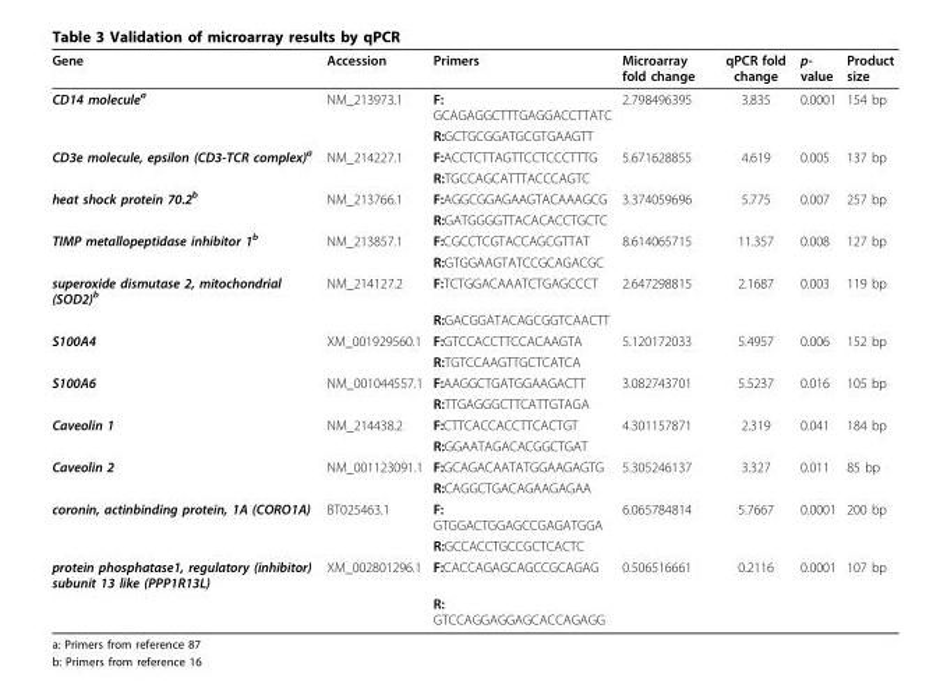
<table><thead><tr><td>Gene</td><td>Accession</td><td>Primers</td><td>Microarray fold change</td><td>qPCR fold change</td><td>p- value</td><td>Product size</td></tr></thead><tbody><tr><td rowspan="2">CD14 molecule<sup>a</sup></td><td>NM_213973.1</td><td>F: GCAGAGGCTTTGAGGACCTTATC</td><td>2.798496395</td><td>3.835</td><td>0.0001</td><td>154 bp</td></tr><tr><td></td><td>R:GCTGCGGATGCGTGAAGTT</td><td></td><td></td><td></td><td></td></tr><tr><td rowspan="2">CD3e molecule, epsilon (CD3-TCR complex)<sup>a</sup></td><td>NM_214227.1</td><td>F:ACCTCTTAGTTCCTCCCTTTG</td><td>5.671628855</td><td>4.619</td><td>0.005</td><td>137 bp</td></tr><tr><td></td><td>R:TGCCAGCATTTACCCAGTC</td><td></td><td></td><td></td><td></td></tr><tr><td rowspan="2">heat shock protein 70.2<sup>b</sup></td><td>NM_213766.1</td><td>F:AGGCGGAGAAGTACAAAGCG</td><td>3.374059696</td><td>5.775</td><td>0.007</td><td>257 bp</td></tr><tr><td></td><td>R:GATGGGGTTACACACCTGCTC</td><td></td><td></td><td></td><td></td></tr><tr><td rowspan="2">TIMP metallopeptidase inhibitor 1<sup>b</sup></td><td>NM_213857.1</td><td>F:CGCCTCGTACCAGCGTTAT</td><td>8.614065715</td><td>11.357</td><td>0.008</td><td>127 bp</td></tr><tr><td></td><td>R:GTGGAAGTATCCGCAGACGC</td><td></td><td></td><td></td><td></td></tr><tr><td rowspan="2">superoxide dismutase 2, mitochondrial (SOD2)<sup>b</sup></td><td>NM_214127.2</td><td>F:TCTGGACAAATCTGAGCCCT</td><td>2.647298815</td><td>2.1687</td><td>0.003</td><td>119 bp</td></tr><tr><td></td><td>R:GACGGATACAGCGGTCAACTT</td><td></td><td></td><td></td><td></td></tr><tr><td rowspan="2">S100A4</td><td>XM_001929560.1</td><td>F:GTCCACCTTCCACAAGTA</td><td>5.120172033</td><td>5.4957</td><td>0.006</td><td>152 bp</td></tr><tr><td></td><td>R:TGTCCAAGTTGCTCATCA</td><td></td><td></td><td></td><td></td></tr><tr><td rowspan="2">S100A6</td><td>NM_001044557.1</td><td>F:AAGGCTGATGGAAGACTT</td><td>3.082743701</td><td>5.5237</td><td>0.016</td><td>105 bp</td></tr><tr><td></td><td>R:TTGAGGGCTTCATTGTAGA</td><td></td><td></td><td></td><td></td></tr><tr><td rowspan="2">Caveolin 1</td><td>NM_214438.2</td><td>F:CTTCACCACCTTCACTGT</td><td>4.301157871</td><td>2.319</td><td>0.041</td><td>184 bp</td></tr><tr><td></td><td>R:GGAATAGACACGGCTGAT</td><td></td><td></td><td></td><td></td></tr><tr><td rowspan="2">Caveolin 2</td><td>NM_001123091.1</td><td>F:GCAGACAATATGGAAGAGTG</td><td>5.305246137</td><td>3.327</td><td>0.011</td><td>85 bp</td></tr><tr><td></td><td>R:CAGGCTGACAGAAGAGAA</td><td></td><td></td><td></td><td></td></tr><tr><td rowspan="2">coronin, actinbinding protein, 1A (CORO1A)</td><td>BT025463.1</td><td>F: GTGGACTGGAGCCGAGATGGA</td><td>6.065784814</td><td>5.7667</td><td>0.0001</td><td>200 bp</td></tr><tr><td></td><td>R:GCCACCTGCCGCTCACTC</td><td></td><td></td><td></td><td></td></tr><tr><td rowspan="2">protein phosphatase1, regulatory (inhibitor) subunit 13 like (PPP1R13L)</td><td>XM_002801296.1</td><td>F:CACCAGAGCAGCCGCAGAG</td><td>0.506516661</td><td>0.2116</td><td>0.0001</td><td>107 bp</td></tr><tr><td></td><td>R: GTCCAGGAGGAGCACCAGAGG</td><td></td><td></td><td></td><td></td></tr></tbody></table>